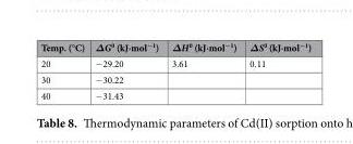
<table><thead><tr><td>Temp. (°C)</td><td>ΔG<sup>0</sup> (kJ∙mol<sup>−1</sup>)</td><td>ΔH <sup>0</sup> (kJ∙mol<sup>−1</sup>)</td><td>ΔS<sup>0</sup> (kJ∙mol<sup>−1</sup>)</td></tr></thead><tbody><tr><td>20</td><td>−29.20</td><td>3.61</td><td>0.11</td></tr><tr><td>30</td><td>−30.22</td><td></td><td></td></tr><tr><td>40</td><td>−31.43</td><td></td><td></td></tr></tbody></table>